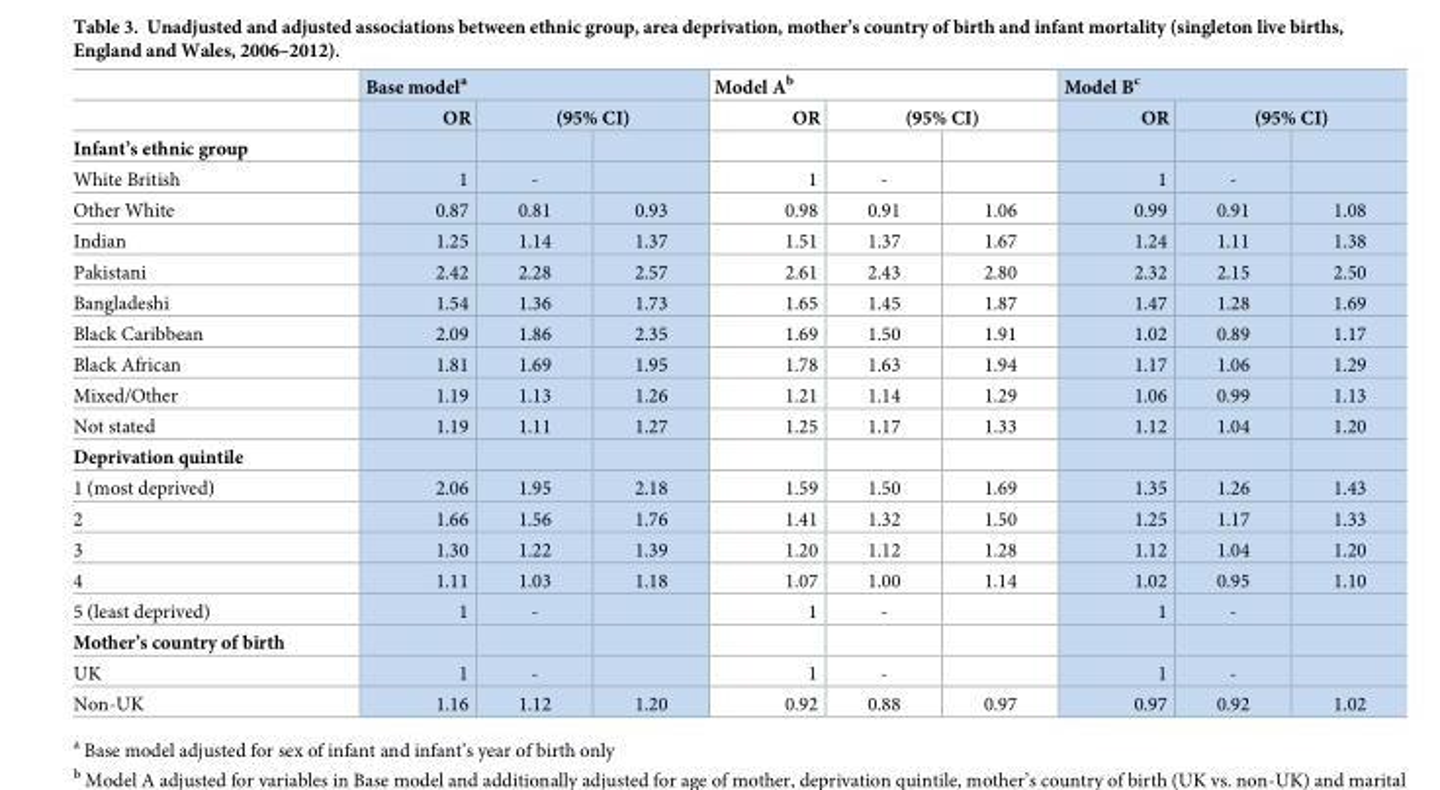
<table><thead><tr><td rowspan="3">Infant’s ethnic group</td><td colspan="3">Base model<sup>a</sup></td><td colspan="3">Model A<sup>b</sup></td><td colspan="3">Model B<sup>c</sup></td></tr><tr><td rowspan="2">OR</td><td colspan="2">(95% CI)</td><td rowspan="2">OR</td><td colspan="2">(95% CI)</td><td rowspan="2">OR</td><td colspan="2">(95% CI)</td></tr><tr><td></td><td></td><td></td><td></td><td></td><td></td></tr></thead><tbody><tr><td>White British</td><td>1</td><td>-</td><td></td><td>1</td><td>-</td><td></td><td>1</td><td>-</td><td></td></tr><tr><td>Other White</td><td>0.87</td><td>0.81</td><td>0.93</td><td>0.98</td><td>0.91</td><td>1.06</td><td>0.99</td><td>0.91</td><td>1.08</td></tr><tr><td>Indian</td><td>1.25</td><td>1.14</td><td>1.37</td><td>1.51</td><td>1.37</td><td>1.67</td><td>1.24</td><td>1.11</td><td>1.38</td></tr><tr><td>Pakistani</td><td>2.42</td><td>2.28</td><td>2.57</td><td>2.61</td><td>2.43</td><td>2.80</td><td>2.32</td><td>2.15</td><td>2.50</td></tr><tr><td>Bangladeshi</td><td>1.54</td><td>1.36</td><td>1.73</td><td>1.65</td><td>1.45</td><td>1.87</td><td>1.47</td><td>1.28</td><td>1.69</td></tr><tr><td>Black Caribbean</td><td>2.09</td><td>1.86</td><td>2.35</td><td>1.69</td><td>1.50</td><td>1.91</td><td>1.02</td><td>0.89</td><td>1.17</td></tr><tr><td>Black African</td><td>1.81</td><td>1.69</td><td>1.95</td><td>1.78</td><td>1.63</td><td>1.94</td><td>1.17</td><td>1.06</td><td>1.29</td></tr><tr><td>Mixed/Other</td><td>1.19</td><td>1.13</td><td>1.26</td><td>1.21</td><td>1.14</td><td>1.29</td><td>1.06</td><td>0.99</td><td>1.13</td></tr><tr><td>Not stated</td><td>1.19</td><td>1.11</td><td>1.27</td><td>1.25</td><td>1.17</td><td>1.33</td><td>1.12</td><td>1.04</td><td>1.20</td></tr><tr><td colspan="10">Deprivation quintile</td></tr><tr><td>1 (most deprived)</td><td>2.06</td><td>1.95</td><td>2.18</td><td>1.59</td><td>1.50</td><td>1.69</td><td>1.35</td><td>1.26</td><td>1.43</td></tr><tr><td>2</td><td>1.66</td><td>1.56</td><td>1.76</td><td>1.41</td><td>1.32</td><td>1.50</td><td>1.25</td><td>1.17</td><td>1.33</td></tr><tr><td>3</td><td>1.30</td><td>1.22</td><td>1.39</td><td>1.20</td><td>1.12</td><td>1.28</td><td>1.12</td><td>1.04</td><td>1.20</td></tr><tr><td>4</td><td>1.11</td><td>1.03</td><td>1.18</td><td>1.07</td><td>1.00</td><td>1.14</td><td>1.02</td><td>0.95</td><td>1.10</td></tr><tr><td>5 (least deprived)</td><td>1</td><td>-</td><td></td><td>1</td><td>-</td><td></td><td>1</td><td>-</td><td></td></tr><tr><td colspan="10">Mother’s country of birth</td></tr><tr><td>UK</td><td>1</td><td>-</td><td></td><td>1</td><td>-</td><td></td><td>1</td><td>-</td><td></td></tr><tr><td>Non-UK</td><td>1.16</td><td>1.12</td><td>1.20</td><td>0.92</td><td>0.88</td><td>0.97</td><td>0.97</td><td>0.92</td><td>1.02</td></tr></tbody></table>